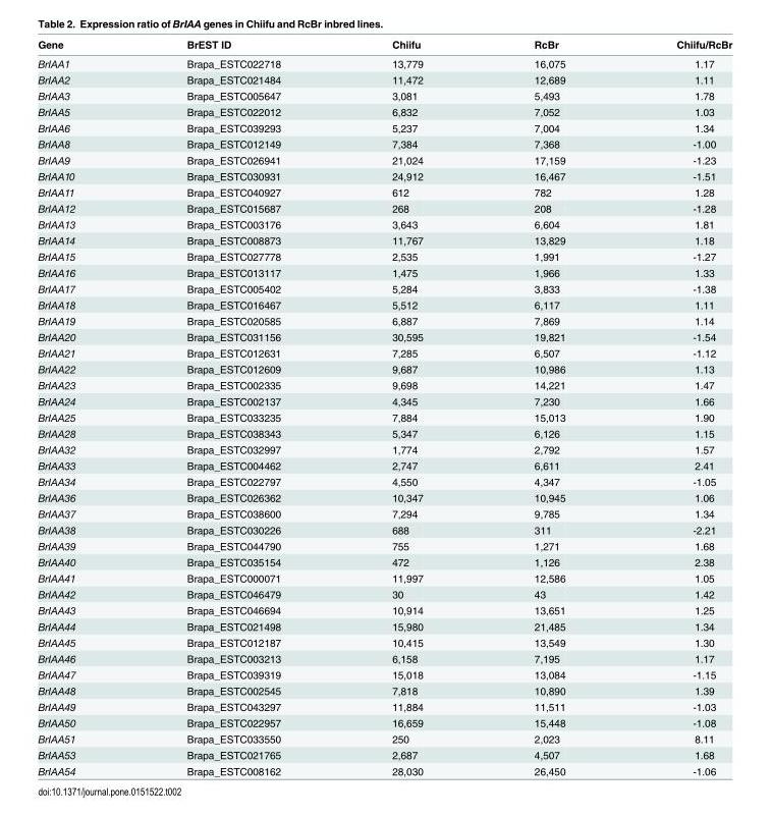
<table><thead><tr><td>Gene</td><td>BrEST ID</td><td>Chiifu</td><td>RcBr</td><td>Chiifu/RcBr</td></tr></thead><tbody><tr><td>BrIAA1</td><td>Brapa_ESTC022718</td><td>13,779</td><td>16,075</td><td>1.17</td></tr><tr><td>BrIAA2</td><td>Brapa_ESTC021484</td><td>11,472</td><td>12,689</td><td>1.11</td></tr><tr><td>BrIAA3</td><td>Brapa_ESTC005647</td><td>3,081</td><td>5,493</td><td>1.78</td></tr><tr><td>BrIAA5</td><td>Brapa_ESTC022012</td><td>6,832</td><td>7,052</td><td>1.03</td></tr><tr><td>BrIAA6</td><td>Brapa_ESTC039293</td><td>5,237</td><td>7,004</td><td>1.34</td></tr><tr><td>BrIAA8</td><td>Brapa_ESTC012149</td><td>7,384</td><td>7,368</td><td>-1.00</td></tr><tr><td>BrIAA9</td><td>Brapa_ESTC026941</td><td>21,024</td><td>17,159</td><td>-1.23</td></tr><tr><td>BrIAA10</td><td>Brapa_ESTC030931</td><td>24,912</td><td>16,467</td><td>-1.51</td></tr><tr><td>BrIAA11</td><td>Brapa_ESTC040927</td><td>612</td><td>782</td><td>1.28</td></tr><tr><td>BrIAA12</td><td>Brapa_ESTC015687</td><td>268</td><td>208</td><td>-1.28</td></tr><tr><td>BrIAA13</td><td>Brapa_ESTC003176</td><td>3,643</td><td>6,604</td><td>1.81</td></tr><tr><td>BrIAA14</td><td>Brapa_ESTC008873</td><td>11,767</td><td>13,829</td><td>1.18</td></tr><tr><td>BrIAA15</td><td>Brapa_ESTC027778</td><td>2,535</td><td>1,991</td><td>-1.27</td></tr><tr><td>BrIAA16</td><td>Brapa_ESTC013117</td><td>1,475</td><td>1,966</td><td>1.33</td></tr><tr><td>BrIAA17</td><td>Brapa_ESTC005402</td><td>5,284</td><td>3,833</td><td>-1.38</td></tr><tr><td>BrIAA18</td><td>Brapa_ESTC016467</td><td>5,512</td><td>6,117</td><td>1.11</td></tr><tr><td>BrIAA19</td><td>Brapa_ESTC020585</td><td>6,887</td><td>7,869</td><td>1.14</td></tr><tr><td>BrIAA20</td><td>Brapa_ESTC031156</td><td>30,595</td><td>19,821</td><td>-1.54</td></tr><tr><td>BrIAA21</td><td>Brapa_ESTC012631</td><td>7,285</td><td>6,507</td><td>-1.12</td></tr><tr><td>BrIAA22</td><td>Brapa_ESTC012609</td><td>9,687</td><td>10,986</td><td>1.13</td></tr><tr><td>BrIAA23</td><td>Brapa_ESTC002335</td><td>9,698</td><td>14,221</td><td>1.47</td></tr><tr><td>BrIAA24</td><td>Brapa_ESTC002137</td><td>4,345</td><td>7,230</td><td>1.66</td></tr><tr><td>BrIAA25</td><td>Brapa_ESTC033235</td><td>7,884</td><td>15,013</td><td>1.90</td></tr><tr><td>BrIAA28</td><td>Brapa_ESTC038343</td><td>5,347</td><td>6,126</td><td>1.15</td></tr><tr><td>BrIAA32</td><td>Brapa_ESTC032997</td><td>1,774</td><td>2,792</td><td>1.57</td></tr><tr><td>BrIAA33</td><td>Brapa_ESTC004462</td><td>2,747</td><td>6,611</td><td>2.41</td></tr><tr><td>BrIAA34</td><td>Brapa_ESTC022797</td><td>4,550</td><td>4,347</td><td>-1.05</td></tr><tr><td>BrIAA36</td><td>Brapa_ESTC026362</td><td>10,347</td><td>10,945</td><td>1.06</td></tr><tr><td>BrIAA37</td><td>Brapa_ESTC038600</td><td>7,294</td><td>9,785</td><td>1.34</td></tr><tr><td>BrIAA38</td><td>Brapa_ESTC030226</td><td>688</td><td>311</td><td>-2.21</td></tr><tr><td>BrIAA39</td><td>Brapa_ESTC044790</td><td>755</td><td>1,271</td><td>1.68</td></tr><tr><td>BrIAA40</td><td>Brapa_ESTC035154</td><td>472</td><td>1,126</td><td>2.38</td></tr><tr><td>BrIAA41</td><td>Brapa_ESTC000071</td><td>11,997</td><td>12,586</td><td>1.05</td></tr><tr><td>BrIAA42</td><td>Brapa_ESTC046479</td><td>30</td><td>43</td><td>1.42</td></tr><tr><td>BrIAA43</td><td>Brapa_ESTC046694</td><td>10,914</td><td>13,651</td><td>1.25</td></tr><tr><td>BrIAA44</td><td>Brapa_ESTC021498</td><td>15,980</td><td>21,485</td><td>1.34</td></tr><tr><td>BrIAA45</td><td>Brapa_ESTC012187</td><td>10,415</td><td>13,549</td><td>1.30</td></tr><tr><td>BrIAA46</td><td>Brapa_ESTC003213</td><td>6,158</td><td>7,195</td><td>1.17</td></tr><tr><td>BrIAA47</td><td>Brapa_ESTC039319</td><td>15,018</td><td>13,084</td><td>-1.15</td></tr><tr><td>BrIAA48</td><td>Brapa_ESTC002545</td><td>7,818</td><td>10,890</td><td>1.39</td></tr><tr><td>BrIAA49</td><td>Brapa_ESTC043297</td><td>11,884</td><td>11,511</td><td>-1.03</td></tr><tr><td>BrIAA50</td><td>Brapa_ESTC022957</td><td>16,659</td><td>15,448</td><td>-1.08</td></tr><tr><td>BrIAA51</td><td>Brapa_ESTC033550</td><td>250</td><td>2,023</td><td>8.11</td></tr><tr><td>BrIAA53</td><td>Brapa_ESTC021765</td><td>2,687</td><td>4,507</td><td>1.68</td></tr><tr><td>BrIAA54</td><td>Brapa_ESTC008162</td><td>28,030</td><td>26,450</td><td>-1.06</td></tr></tbody></table>